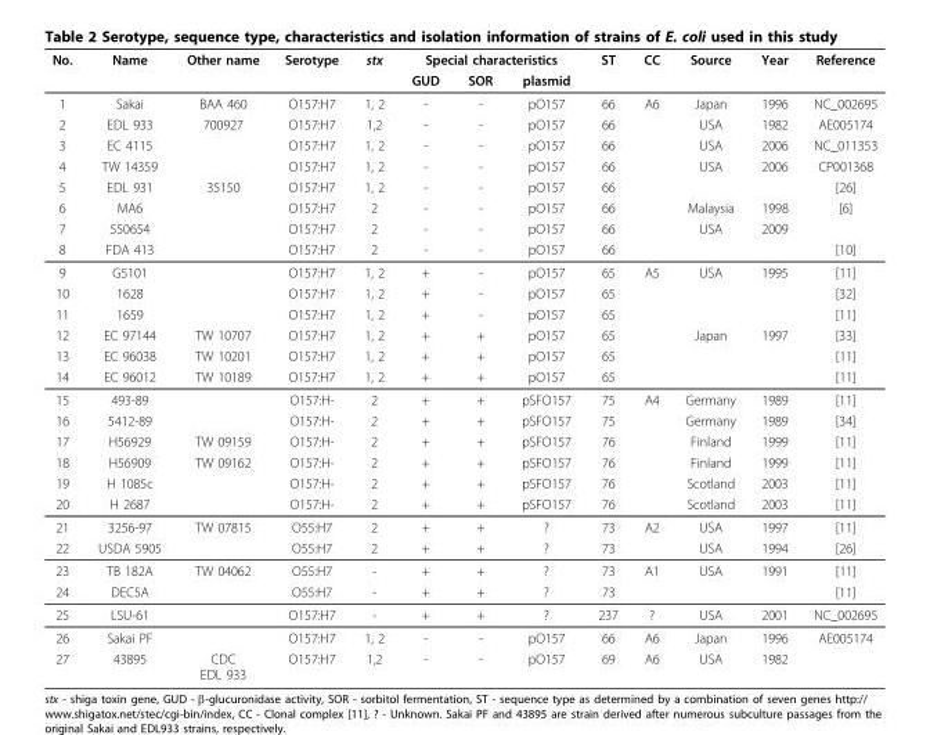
<table><thead><tr><td rowspan="2">No.</td><td rowspan="2">Name</td><td rowspan="2">Other name</td><td rowspan="2">Serotype</td><td rowspan="2">stx</td><td colspan="3">Special characteristics</td><td rowspan="2">ST</td><td rowspan="2">CC</td><td rowspan="2">Source</td><td rowspan="2">Year</td><td rowspan="2">Reference</td></tr><tr><td>GUD</td><td>SOR</td><td>plasmid</td></tr></thead><tbody><tr><td>1</td><td>Sakai</td><td>BAA 460</td><td>O157:H7</td><td>1, 2</td><td>-</td><td>-</td><td>pO157</td><td>66</td><td>A6</td><td>Japan</td><td>1996</td><td>NC_002695</td></tr><tr><td>2</td><td>EDL 933</td><td>700927</td><td>O157:H7</td><td>1,2</td><td>-</td><td>-</td><td>pO157</td><td>66</td><td></td><td>USA</td><td>1982</td><td>AE005174</td></tr><tr><td>3</td><td>EC 4115</td><td></td><td>O157:H7</td><td>1, 2</td><td>-</td><td>-</td><td>pO157</td><td>66</td><td></td><td>USA</td><td>2006</td><td>NC_011353</td></tr><tr><td>4</td><td>TW 14359</td><td></td><td>O157:H7</td><td>1, 2</td><td>-</td><td>-</td><td>pO157</td><td>66</td><td></td><td>USA</td><td>2006</td><td>CP001368</td></tr><tr><td>5</td><td>EDL 931</td><td>35150</td><td>O157:H7</td><td>1, 2</td><td>-</td><td>-</td><td>pO157</td><td>66</td><td></td><td></td><td></td><td>[26]</td></tr><tr><td>6</td><td>MA6</td><td></td><td>O157:H7</td><td>2</td><td>-</td><td>-</td><td>pO157</td><td>66</td><td></td><td>Malaysia</td><td>1998</td><td>[6]</td></tr><tr><td>7</td><td>550654</td><td></td><td>O157:H7</td><td>2</td><td>-</td><td>-</td><td>pO157</td><td>66</td><td></td><td>USA</td><td>2009</td><td></td></tr><tr><td>8</td><td>FDA 413</td><td></td><td>O157:H7</td><td>2</td><td>-</td><td>-</td><td>pO157</td><td>66</td><td></td><td></td><td></td><td>[10]</td></tr><tr><td>9</td><td>G5101</td><td></td><td>O157:H7</td><td>1, 2</td><td>+</td><td>-</td><td>pO157</td><td>65</td><td>A5</td><td>USA</td><td>1995</td><td>[11]</td></tr><tr><td>10</td><td>1628</td><td></td><td>O157:H7</td><td>1, 2</td><td>+</td><td>-</td><td>pO157</td><td>65</td><td></td><td></td><td></td><td>[32]</td></tr><tr><td>11</td><td>1659</td><td></td><td>O157:H7</td><td>1, 2</td><td>+</td><td>-</td><td>pO157</td><td>65</td><td></td><td></td><td></td><td>[11]</td></tr><tr><td>12</td><td>EC 97144</td><td>TW 10707</td><td>O157:H7</td><td>1, 2</td><td>+</td><td>+</td><td>pO157</td><td>65</td><td></td><td>Japan</td><td>1997</td><td>[33]</td></tr><tr><td>13</td><td>EC 96038</td><td>TW 10201</td><td>O157:H7</td><td>1, 2</td><td>+</td><td>+</td><td>pO157</td><td>65</td><td></td><td></td><td></td><td>[11]</td></tr><tr><td>14</td><td>EC 96012</td><td>TW 10189</td><td>O157:H7</td><td>1, 2</td><td>+</td><td>+</td><td>pO157</td><td>65</td><td></td><td></td><td></td><td>[11]</td></tr><tr><td>15</td><td>493-89</td><td></td><td>O157:H-</td><td>2</td><td>+</td><td>+</td><td>pSFO157</td><td>75</td><td>A4</td><td>Germany</td><td>1989</td><td>[11]</td></tr><tr><td>16</td><td>5412-89</td><td></td><td>O157:H-</td><td>2</td><td>+</td><td>+</td><td>pSFO157</td><td>75</td><td></td><td>Germany</td><td>1989</td><td>[34]</td></tr><tr><td>17</td><td>H56929</td><td>TW 09159</td><td>O157:H-</td><td>2</td><td>+</td><td>+</td><td>pSFO157</td><td>76</td><td></td><td>Finland</td><td>1999</td><td>[11]</td></tr><tr><td>18</td><td>H56909</td><td>TW 09162</td><td>O157:H-</td><td>2</td><td>+</td><td>+</td><td>pSFO157</td><td>76</td><td></td><td>Finland</td><td>1999</td><td>[11]</td></tr><tr><td>19</td><td>H 1085c</td><td></td><td>O157:H-</td><td>2</td><td>+</td><td>+</td><td>pSFO157</td><td>76</td><td></td><td>Scotland</td><td>2003</td><td>[11]</td></tr><tr><td>20</td><td>H 2687</td><td></td><td>O157:H-</td><td>2</td><td>+</td><td>+</td><td>pSFO157</td><td>76</td><td></td><td>Scotland</td><td>2003</td><td>[11]</td></tr><tr><td>21</td><td>3256-97</td><td>TW 07815</td><td>O55:H7</td><td>2</td><td>+</td><td>+</td><td>?</td><td>73</td><td>A2</td><td>USA</td><td>1997</td><td>[11]</td></tr><tr><td>22</td><td>USDA 5905</td><td></td><td>O55:H7</td><td>2</td><td>+</td><td>+</td><td>?</td><td>73</td><td></td><td>USA</td><td>1994</td><td>[26]</td></tr><tr><td>23</td><td>TB 182A</td><td>TW 04062</td><td>O55:H7</td><td>-</td><td>+</td><td>+</td><td>?</td><td>73</td><td>A1</td><td>USA</td><td>1991</td><td>[11]</td></tr><tr><td>24</td><td>DEC5A</td><td></td><td>O55:H7</td><td>-</td><td>+</td><td>+</td><td>?</td><td>73</td><td></td><td></td><td></td><td>[11]</td></tr><tr><td>25</td><td>LSU-61</td><td></td><td>O157:H7</td><td>-</td><td>+</td><td>+</td><td>?</td><td>237</td><td>?</td><td>USA</td><td>2001</td><td>NC_002695</td></tr><tr><td>26</td><td>Sakai PF</td><td></td><td>O157:H7</td><td>1, 2</td><td>-</td><td>-</td><td>pO157</td><td>66</td><td>A6</td><td>Japan</td><td>1996</td><td>AE005174</td></tr><tr><td>27</td><td>43895</td><td>CDC EDL 933</td><td>O157:H7</td><td>1,2</td><td>-</td><td>-</td><td>pO157</td><td>69</td><td>A6</td><td>USA</td><td>1982</td><td></td></tr></tbody></table>